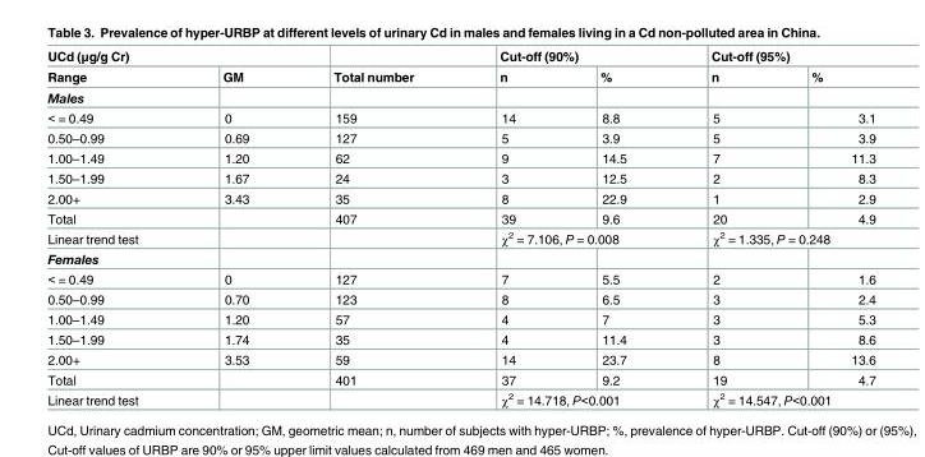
<table><thead><tr><td colspan="2">UCd (μg/g Cr)</td><td rowspan="2">Total number</td><td colspan="2">Cut-off (90%)</td><td colspan="2">Cut-off (95%)</td></tr><tr><td>Range</td><td>GM</td><td>n</td><td>%</td><td>n</td><td>%</td></tr></thead><tbody><tr><td colspan="7">Males</td></tr><tr><td>&lt; = 0.49</td><td>0</td><td>159</td><td>14</td><td>8.8</td><td>5</td><td>3.1</td></tr><tr><td>0.50–0.99</td><td>0.69</td><td>127</td><td>5</td><td>3.9</td><td>5</td><td>3.9</td></tr><tr><td>1.00–1.49</td><td>1.20</td><td>62</td><td>9</td><td>14.5</td><td>7</td><td>11.3</td></tr><tr><td>1.50–1.99</td><td>1.67</td><td>24</td><td>3</td><td>12.5</td><td>2</td><td>8.3</td></tr><tr><td>2.00+</td><td>3.43</td><td>35</td><td>8</td><td>22.9</td><td>1</td><td>2.9</td></tr><tr><td>Total</td><td></td><td>407</td><td>39</td><td>9.6</td><td>20</td><td>4.9</td></tr><tr><td>Linear trend test</td><td></td><td></td><td colspan="2">χ<sup>2</sup> = 7.106, P = 0.008</td><td colspan="2">χ<sup>2</sup> = 1.335, P = 0.248</td></tr><tr><td colspan="7">Females</td></tr><tr><td>&lt; = 0.49</td><td>0</td><td>127</td><td>7</td><td>5.5</td><td>2</td><td>1.6</td></tr><tr><td>0.50–0.99</td><td>0.70</td><td>123</td><td>8</td><td>6.5</td><td>3</td><td>2.4</td></tr><tr><td>1.00–1.49</td><td>1.20</td><td>57</td><td>4</td><td>7</td><td>3</td><td>5.3</td></tr><tr><td>1.50–1.99</td><td>1.74</td><td>35</td><td>4</td><td>11.4</td><td>3</td><td>8.6</td></tr><tr><td>2.00+</td><td>3.53</td><td>59</td><td>14</td><td>23.7</td><td>8</td><td>13.6</td></tr><tr><td>Total</td><td></td><td>401</td><td>37</td><td>9.2</td><td>19</td><td>4.7</td></tr><tr><td>Linear trend test</td><td></td><td></td><td colspan="2">χ<sup>2</sup> = 14.718, P&lt;0.001</td><td colspan="2">χ<sup>2</sup> = 14.547, P&lt;0.001</td></tr></tbody></table>